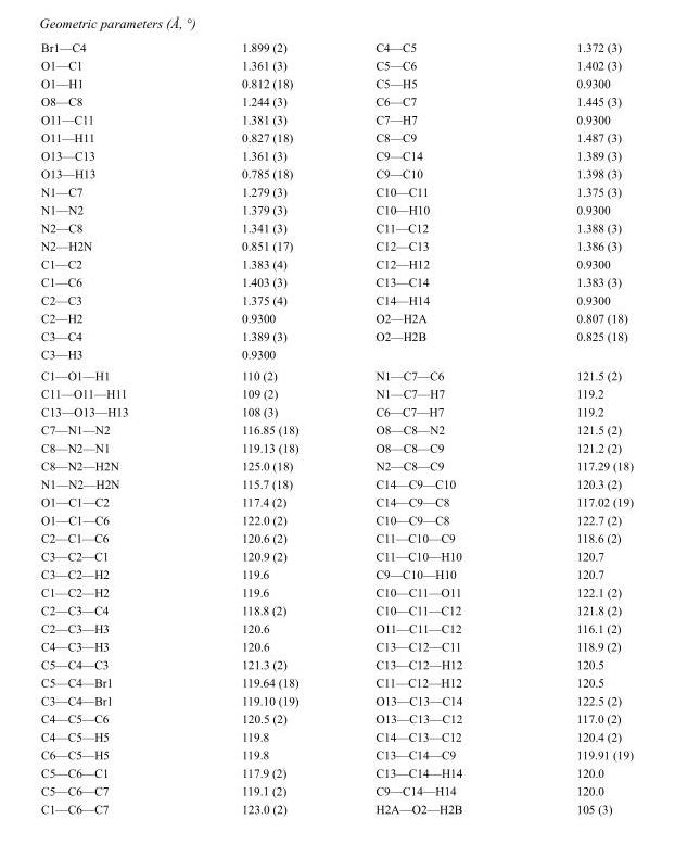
<table><tbody><tr><td>Br1—C4</td><td>1.899 (2)</td><td>C4—C5</td><td>1.372 (3)</td></tr><tr><td>O1—C1</td><td>1.361 (3)</td><td>C5—C6</td><td>1.402 (3)</td></tr><tr><td>O1—H1</td><td>0.812 (18)</td><td>C5—H5</td><td>0.9300</td></tr><tr><td>O8—C8</td><td>1.244 (3)</td><td>C6—C7</td><td>1.445 (3)</td></tr><tr><td>O11—C11</td><td>1.381 (3)</td><td>C7—H7</td><td>0.9300</td></tr><tr><td>O11—H11</td><td>0.827 (18)</td><td>C8—C9</td><td>1.487 (3)</td></tr><tr><td>O13—C13</td><td>1.361 (3)</td><td>C9—C14</td><td>1.389 (3)</td></tr><tr><td>O13—H13</td><td>0.785 (18)</td><td>C9—C10</td><td>1.398 (3)</td></tr><tr><td>N1—C7</td><td>1.279 (3)</td><td>C10—C11</td><td>1.375 (3)</td></tr><tr><td>N1—N2</td><td>1.379 (3)</td><td>C10—H10</td><td>0.9300</td></tr><tr><td>N2—C8</td><td>1.341 (3)</td><td>C11—C12</td><td>1.388 (3)</td></tr><tr><td>N2—H2N</td><td>0.851 (17)</td><td>C12—C13</td><td>1.386 (3)</td></tr><tr><td>C1—C2</td><td>1.383 (4)</td><td>C12—H12</td><td>0.9300</td></tr><tr><td>C1—C6</td><td>1.403 (3)</td><td>C13—C14</td><td>1.383 (3)</td></tr><tr><td>C2—C3</td><td>1.375 (4)</td><td>C14—H14</td><td>0.9300</td></tr><tr><td>C2—H2</td><td>0.9300</td><td>O2—H2A</td><td>0.807 (18)</td></tr><tr><td>C3—C4</td><td>1.389 (3)</td><td>O2—H2B</td><td>0.825 (18)</td></tr><tr><td>C3—H3</td><td>0.9300</td><td></td><td></td></tr><tr><td>C1—O1—H1</td><td>110 (2)</td><td>N1—C7—C6</td><td>121.5 (2)</td></tr><tr><td>C11—O11—H11</td><td>109 (2)</td><td>N1—C7—H7</td><td>119.2</td></tr><tr><td>C13—O13—H13</td><td>108 (3)</td><td>C6—C7—H7</td><td>119.2</td></tr><tr><td>C7—N1—N2</td><td>116.85 (18)</td><td>O8—C8—N2</td><td>121.5 (2)</td></tr><tr><td>C8—N2—N1</td><td>119.13 (18)</td><td>O8—C8—C9</td><td>121.2 (2)</td></tr><tr><td>C8—N2—H2N</td><td>125.0 (18)</td><td>N2—C8—C9</td><td>117.29 (18)</td></tr><tr><td>N1—N2—H2N</td><td>115.7 (18)</td><td>C14—C9—C10</td><td>120.3 (2)</td></tr><tr><td>O1—C1—C2</td><td>117.4 (2)</td><td>C14—C9—C8</td><td>117.02 (19)</td></tr><tr><td>O1—C1—C6</td><td>122.0 (2)</td><td>C10—C9—C8</td><td>122.7 (2)</td></tr><tr><td>C2—C1—C6</td><td>120.6 (2)</td><td>C11—C10—C9</td><td>118.6 (2)</td></tr><tr><td>C3—C2—C1</td><td>120.9 (2)</td><td>C11—C10—H10</td><td>120.7</td></tr><tr><td>C3—C2—H2</td><td>119.6</td><td>C9—C10—H10</td><td>120.7</td></tr><tr><td>C1—C2—H2</td><td>119.6</td><td>C10—C11—O11</td><td>122.1 (2)</td></tr><tr><td>C2—C3—C4</td><td>118.8 (2)</td><td>C10—C11—C12</td><td>121.8 (2)</td></tr><tr><td>C2—C3—H3</td><td>120.6</td><td>O11—C11—C12</td><td>116.1 (2)</td></tr><tr><td>C4—C3—H3</td><td>120.6</td><td>C13—C12—C11</td><td>118.9 (2)</td></tr><tr><td>C5—C4—C3</td><td>121.3 (2)</td><td>C13—C12—H12</td><td>120.5</td></tr><tr><td>C5—C4—Br1</td><td>119.64 (18)</td><td>C11—C12—H12</td><td>120.5</td></tr><tr><td>C3—C4—Br1</td><td>119.10 (19)</td><td>O13—C13—C14</td><td>122.5 (2)</td></tr><tr><td>C4—C5—C6</td><td>120.5 (2)</td><td>O13—C13—C12</td><td>117.0 (2)</td></tr><tr><td>C4—C5—H5</td><td>119.8</td><td>C14—C13—C12</td><td>120.4 (2)</td></tr><tr><td>C6—C5—H5</td><td>119.8</td><td>C13—C14—C9</td><td>119.91 (19)</td></tr><tr><td>C5—C6—C1</td><td>117.9 (2)</td><td>C13—C14—H14</td><td>120.0</td></tr><tr><td>C5—C6—C7</td><td>119.1 (2)</td><td>C9—C14—H14</td><td>120.0</td></tr><tr><td>C1—C6—C7</td><td>123.0 (2)</td><td>H2A—O2—H2B</td><td>105 (3)</td></tr></tbody></table>